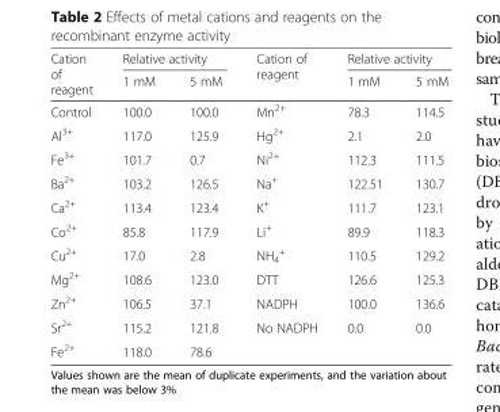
<table><thead><tr><td rowspan="2">Cation of reagent</td><td colspan="2">Relative activity</td><td rowspan="2">Cation of reagent</td><td colspan="2">Relative activity</td></tr><tr><td>1 mM</td><td>5 mM</td><td>1 mM</td><td>5 mM</td></tr></thead><tbody><tr><td>Control</td><td>100.0</td><td>100.0</td><td>Mn<sup>2+</sup></td><td>78.3</td><td>114.5</td></tr><tr><td>Al<sup>3+</sup></td><td>117.0</td><td>125.9</td><td>Hg<sup>2+</sup></td><td>2.1</td><td>2.0</td></tr><tr><td>Fe<sup>3+</sup></td><td>101.7</td><td>0.7</td><td>Ni<sup>2+</sup></td><td>112.3</td><td>111.5</td></tr><tr><td>Ba<sup>2+</sup></td><td>103.2</td><td>126.5</td><td>Na<sup>+</sup></td><td>122.51</td><td>130.7</td></tr><tr><td>Ca<sup>2+</sup></td><td>113.4</td><td>123.4</td><td>K<sup>+</sup></td><td>111.7</td><td>123.1</td></tr><tr><td>Co<sup>2+</sup></td><td>85.8</td><td>117.9</td><td>Li<sup>+</sup></td><td>89.9</td><td>118.3</td></tr><tr><td>Cu<sup>2+</sup></td><td>17.0</td><td>2.8</td><td>NH<sub>4</sub> <sup>+</sup></td><td>110.5</td><td>129.2</td></tr><tr><td>Mg<sup>2+</sup></td><td>108.6</td><td>123.0</td><td>DTT</td><td>126.6</td><td>125.3</td></tr><tr><td>Zn<sup>2+</sup></td><td>106.5</td><td>37.1</td><td>NADPH</td><td>100.0</td><td>136.6</td></tr><tr><td>Sr<sup>2+</sup></td><td>115.2</td><td>121.8</td><td>No NADPH</td><td>0.0</td><td>0.0</td></tr><tr><td>Fe<sup>2+</sup></td><td>118.0</td><td>78.6</td><td></td><td></td><td></td></tr></tbody></table>